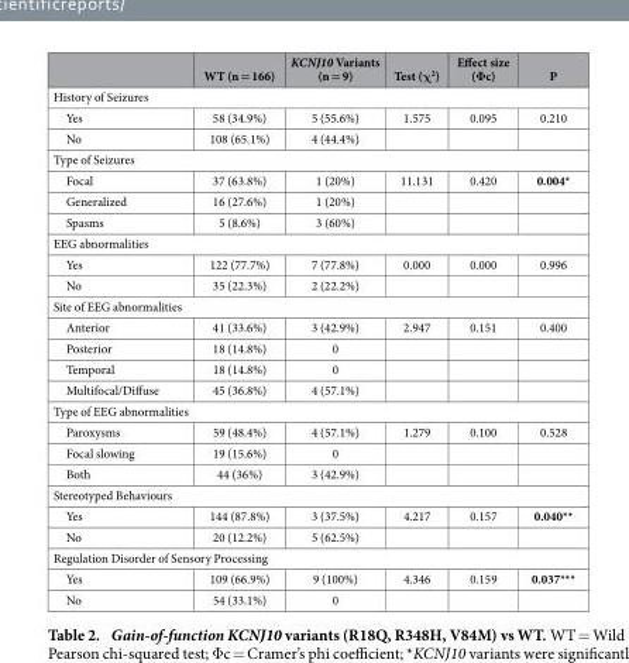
<table><thead><tr><td></td><td>WT (n = 166)</td><td>KCNJ10 Variants (n = 9)</td><td>Test (χ<sup>2</sup>)</td><td>Effect size (Φc)</td><td>P</td></tr></thead><tbody><tr><td colspan="6">History of Seizures</td></tr><tr><td>Yes</td><td>58 (34.9%)</td><td>5 (55.6%)</td><td>1.575</td><td>0.095</td><td>0.210</td></tr><tr><td>No</td><td>108 (65.1%)</td><td>4 (44.4%)</td><td></td><td></td><td></td></tr><tr><td colspan="6">Type of Seizures</td></tr><tr><td>Focal</td><td>37 (63.8%)</td><td>1 (20%)</td><td>11.131</td><td>0.420</td><td>0.004*</td></tr><tr><td>Generalized</td><td>16 (27.6%)</td><td>1 (20%)</td><td></td><td></td><td></td></tr><tr><td>Spasms</td><td>5 (8.6%)</td><td>3 (60%)</td><td></td><td></td><td></td></tr><tr><td colspan="6">EEG abnormalities</td></tr><tr><td>Yes</td><td>122 (77.7%)</td><td>7 (77.8%)</td><td>0.000</td><td>0.000</td><td>0.996</td></tr><tr><td>No</td><td>35 (22.3%)</td><td>2 (22.2%)</td><td></td><td></td><td></td></tr><tr><td colspan="6">Site of EEG abnormalities</td></tr><tr><td>Anterior</td><td>41 (33.6%)</td><td>3 (42.9%)</td><td>2.947</td><td>0.151</td><td>0.400</td></tr><tr><td>Posterior</td><td>18 (14.8%)</td><td>0</td><td></td><td></td><td></td></tr><tr><td>Temporal</td><td>18 (14.8%)</td><td>0</td><td></td><td></td><td></td></tr><tr><td>Multifocal/Diffuse</td><td>45 (36.8%)</td><td>4 (57.1%)</td><td></td><td></td><td></td></tr><tr><td colspan="6">Type of EEG abnormalities</td></tr><tr><td>Paroxysms</td><td>59 (48.4%)</td><td>4 (57.1%)</td><td>1.279</td><td>0.100</td><td>0.528</td></tr><tr><td>Focal slowing</td><td>19 (15.6%)</td><td>0</td><td></td><td></td><td></td></tr><tr><td>Both</td><td>44 (36%)</td><td>3 (42.9%)</td><td></td><td></td><td></td></tr><tr><td colspan="6">Stereotyped Behaviours</td></tr><tr><td>Yes</td><td>144 (87.8%)</td><td>3 (37.5%)</td><td>4.217</td><td>0.157</td><td>0.040**</td></tr><tr><td>No</td><td>20 (12.2%)</td><td>5 (62.5%)</td><td></td><td></td><td></td></tr><tr><td colspan="6">Regulation Disorder of Sensory Processing</td></tr><tr><td>Yes</td><td>109 (66.9%)</td><td>9 (100%)</td><td>4.346</td><td>0.159</td><td>0.037***</td></tr><tr><td>No</td><td>54 (33.1%)</td><td>0</td><td></td><td></td><td></td></tr></tbody></table>